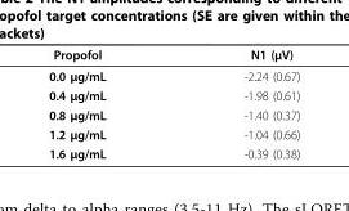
<table><thead><tr><td>Propofol</td><td>N1 (µV)</td></tr></thead><tbody><tr><td>0.0 µg/mL</td><td>-2.24 (0.67)</td></tr><tr><td>0.4 µg/mL</td><td>-1.98 (0.61)</td></tr><tr><td>0.8 µg/mL</td><td>-1.40 (0.37)</td></tr><tr><td>1.2 µg/mL</td><td>-1.04 (0.66)</td></tr><tr><td>1.6 µg/mL</td><td>-0.39 (0.38)</td></tr></tbody></table>